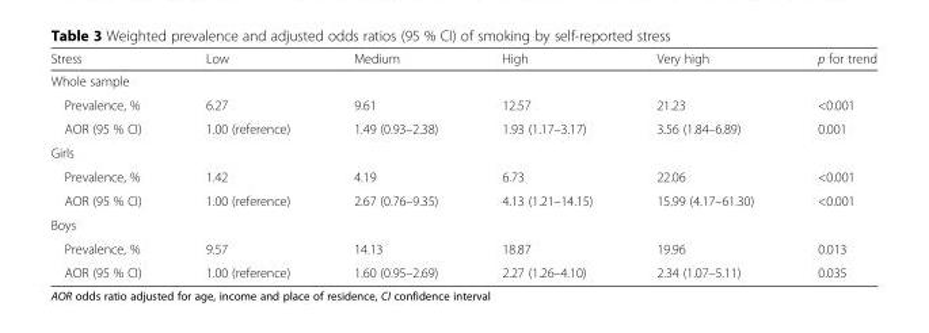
<table><thead><tr><td>Stress</td><td>Low</td><td>Medium</td><td>High</td><td>Very high</td><td>p for trend</td></tr></thead><tbody><tr><td colspan="6">Whole sample</td></tr><tr><td>Prevalence, %</td><td>6.27</td><td>9.61</td><td>12.57</td><td>21.23</td><td>&lt;0.001</td></tr><tr><td>AOR (95 % CI)</td><td>1.00 (reference)</td><td>1.49 (0.93–2.38)</td><td>1.93 (1.17–3.17)</td><td>3.56 (1.84–6.89)</td><td>0.001</td></tr><tr><td colspan="6">Girls</td></tr><tr><td>Prevalence, %</td><td>1.42</td><td>4.19</td><td>6.73</td><td>22.06</td><td>&lt;0.001</td></tr><tr><td>AOR (95 % CI)</td><td>1.00 (reference)</td><td>2.67 (0.76–9.35)</td><td>4.13 (1.21–14.15)</td><td>15.99 (4.17–61.30)</td><td>&lt;0.001</td></tr><tr><td colspan="6">Boys</td></tr><tr><td>Prevalence, %</td><td>9.57</td><td>14.13</td><td>18.87</td><td>19.96</td><td>0.013</td></tr><tr><td>AOR (95 % CI)</td><td>1.00 (reference)</td><td>1.60 (0.95–2.69)</td><td>2.27 (1.26–4.10)</td><td>2.34 (1.07–5.11)</td><td>0.035</td></tr></tbody></table>